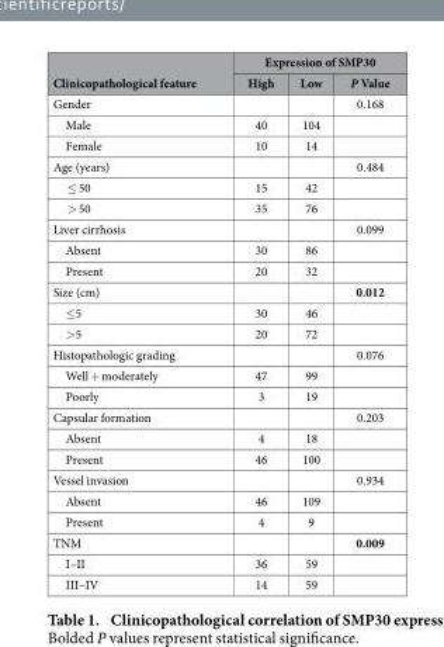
<table><thead><tr><td rowspan="2">Clinicopathological feature</td><td colspan="3">Expression of SMP30</td></tr><tr><td>High</td><td>Low</td><td>P Value</td></tr></thead><tbody><tr><td>Gender</td><td></td><td></td><td>0.168</td></tr><tr><td>Male</td><td>40</td><td>104</td><td></td></tr><tr><td>Female</td><td>10</td><td>14</td><td></td></tr><tr><td>Age (years)</td><td></td><td></td><td>0.484</td></tr><tr><td>≤ 50</td><td>15</td><td>42</td><td></td></tr><tr><td>&gt; 50</td><td>35</td><td>76</td><td></td></tr><tr><td>Liver cirrhosis</td><td></td><td></td><td>0.099</td></tr><tr><td>Absent</td><td>30</td><td>86</td><td></td></tr><tr><td>Present</td><td>20</td><td>32</td><td></td></tr><tr><td>Size (cm)</td><td></td><td></td><td>0.012</td></tr><tr><td>≤ 5</td><td>30</td><td>46</td><td></td></tr><tr><td>&gt; 5</td><td>20</td><td>72</td><td></td></tr><tr><td>Histopathologic grading</td><td></td><td></td><td>0.076</td></tr><tr><td>Well + moderately</td><td>47</td><td>99</td><td></td></tr><tr><td>Poorly</td><td>3</td><td>19</td><td></td></tr><tr><td>Capsular formation</td><td></td><td></td><td>0.203</td></tr><tr><td>Absent</td><td>4</td><td>18</td><td></td></tr><tr><td>Present</td><td>46</td><td>100</td><td></td></tr><tr><td>Vessel invasion</td><td></td><td></td><td>0.934</td></tr><tr><td>Absent</td><td>46</td><td>109</td><td></td></tr><tr><td>Present</td><td>4</td><td>9</td><td></td></tr><tr><td>TNM</td><td></td><td></td><td>0.009</td></tr><tr><td>I–II</td><td>36</td><td>59</td><td></td></tr><tr><td>III–IV</td><td>14</td><td>59</td><td></td></tr></tbody></table>